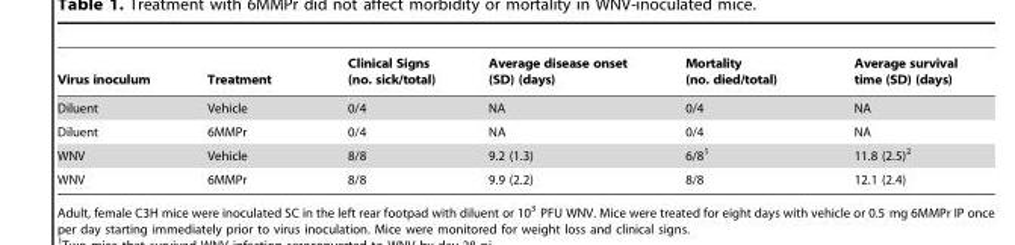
<table><thead><tr><td>Virus inoculum</td><td>Treatment</td><td>Clinical Signs (no. sick/total)</td><td>Average disease onset (SD) (days)</td><td>Mortality (no. died/total)</td><td>Average survival time (SD) (days)</td></tr></thead><tbody><tr><td>Diluent</td><td>Vehicle</td><td>0/4</td><td>NA</td><td>0/4</td><td>NA</td></tr><tr><td>Diluent</td><td>6MMPr</td><td>0/4</td><td>NA</td><td>0/4</td><td>NA</td></tr><tr><td>WNV</td><td>Vehicle</td><td>8/8</td><td>9.2 (1.3)</td><td>6/8<sup>1</sup></td><td>11.8 (2.5)<sup>2</sup></td></tr><tr><td>WNV</td><td>6MMPr</td><td>8/8</td><td>9.9 (2.2)</td><td>8/8</td><td>12.1 (2.4)</td></tr></tbody></table>